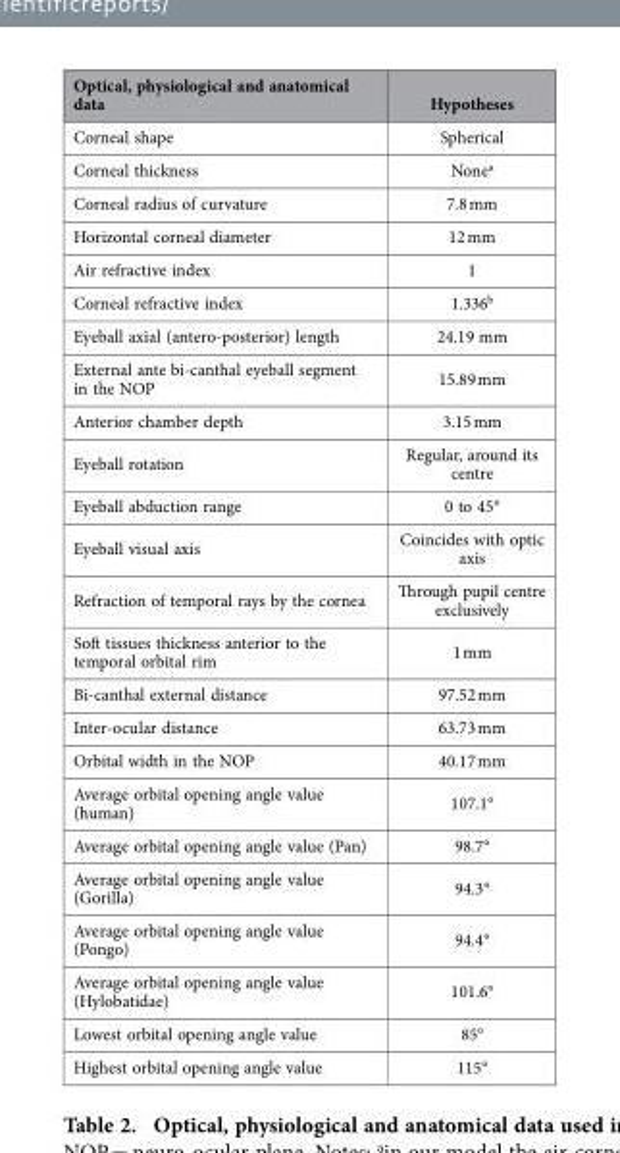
<table><thead><tr><td>Optical, physiological and anatomical data</td><td>Hypotheses</td></tr></thead><tbody><tr><td>Corneal shape</td><td>Spherical</td></tr><tr><td>Corneal thickness</td><td>None<sup>a</sup></td></tr><tr><td>Corneal radius of curvature</td><td>7.8 mm</td></tr><tr><td>Horizontal corneal diameter</td><td>12 mm</td></tr><tr><td>Air refractive index</td><td>1</td></tr><tr><td>Corneal refractive index</td><td>1.336<sup>b</sup></td></tr><tr><td>Eyeball axial (antero-posterior) length</td><td>24.19 mm</td></tr><tr><td>External ante bi-canthal eyeball segment in the NOP</td><td>15.89 mm</td></tr><tr><td>Anterior chamber depth</td><td>3.15 mm</td></tr><tr><td>Eyeball rotation</td><td>Regular, around its centre</td></tr><tr><td>Eyeball abduction range</td><td>0 to 45°</td></tr><tr><td>Eyeball visual axis</td><td>Coincides with optic axis</td></tr><tr><td>Refraction of temporal rays by the cornea</td><td>Through pupil centre exclusively</td></tr><tr><td>Soft tissues thickness anterior to the temporal orbital rim</td><td>1 mm</td></tr><tr><td>Bi-canthal external distance</td><td>97.52 mm</td></tr><tr><td>Inter-ocular distance</td><td>63.73 mm</td></tr><tr><td>Orbital width in the NOP</td><td>40.17 mm</td></tr><tr><td>Average orbital opening angle value (human)</td><td>107.1°</td></tr><tr><td>Average orbital opening angle value (Pan)</td><td>98.7°</td></tr><tr><td>Average orbital opening angle value (Gorilla)</td><td>94.3°</td></tr><tr><td>Average orbital opening angle value (Pongo)</td><td>94.4°</td></tr><tr><td>Average orbital opening angle value (Hylobatidae)</td><td>101.6°</td></tr><tr><td>Lowest orbital opening angle value</td><td>85°</td></tr><tr><td>Highest orbital opening angle value</td><td>115°</td></tr></tbody></table>